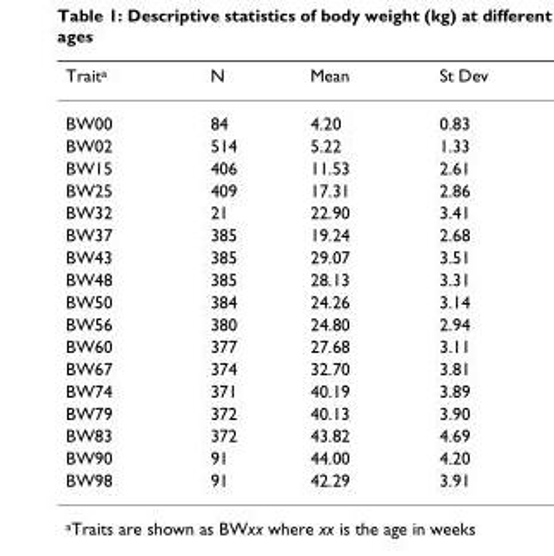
<table><thead><tr><td>Trait<sup>a</sup></td><td>N</td><td>Mean</td><td>St Dev</td></tr></thead><tbody><tr><td>BW00</td><td>84</td><td>4.20</td><td>0.83</td></tr><tr><td>BW02</td><td>514</td><td>5.22</td><td>1.33</td></tr><tr><td>BW15</td><td>406</td><td>11.53</td><td>2.61</td></tr><tr><td>BW25</td><td>409</td><td>17.31</td><td>2.86</td></tr><tr><td>BW32</td><td>21</td><td>22.90</td><td>3.41</td></tr><tr><td>BW37</td><td>385</td><td>19.24</td><td>2.68</td></tr><tr><td>BW43</td><td>385</td><td>29.07</td><td>3.51</td></tr><tr><td>BW48</td><td>385</td><td>28.13</td><td>3.31</td></tr><tr><td>BW50</td><td>384</td><td>24.26</td><td>3.14</td></tr><tr><td>BW56</td><td>380</td><td>24.80</td><td>2.94</td></tr><tr><td>BW60</td><td>377</td><td>27.68</td><td>3.11</td></tr><tr><td>BW67</td><td>374</td><td>32.70</td><td>3.81</td></tr><tr><td>BW74</td><td>371</td><td>40.19</td><td>3.89</td></tr><tr><td>BW79</td><td>372</td><td>40.13</td><td>3.90</td></tr><tr><td>BW83</td><td>372</td><td>43.82</td><td>4.69</td></tr><tr><td>BW90</td><td>91</td><td>44.00</td><td>4.20</td></tr><tr><td>BW98</td><td>91</td><td>42.29</td><td>3.91</td></tr></tbody></table>